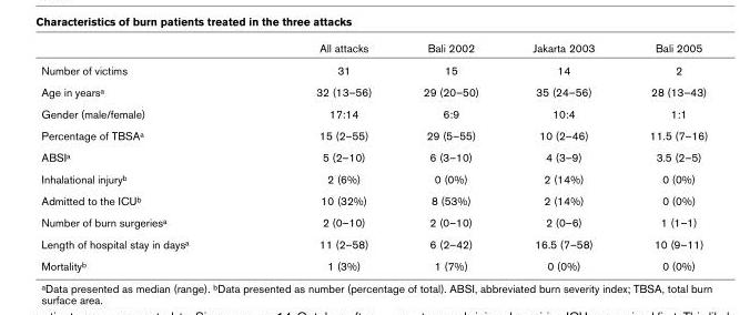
<table><thead><tr><td></td><td>All attacks</td><td>Bali 2002</td><td>Jakarta 2003</td><td>Bali 2005</td></tr></thead><tbody><tr><td>Number of victims</td><td>31</td><td>15</td><td>14</td><td>2</td></tr><tr><td>Age in years<sup>a</sup></td><td>32 (13–56)</td><td>29 (20–50)</td><td>35 (24–56)</td><td>28 (13–43)</td></tr><tr><td>Gender (male/female)</td><td>17:14</td><td>6:9</td><td>10:4</td><td>1:1</td></tr><tr><td>Percentage of TBSA<sup>a</sup></td><td>15 (2–55)</td><td>29 (5–55)</td><td>10 (2–46)</td><td>11.5 (7–16)</td></tr><tr><td>ABSI<sup>a</sup></td><td>5 (2–10)</td><td>6 (3–10)</td><td>4 (3–9)</td><td>3.5 (2–5)</td></tr><tr><td>Inhalational injury<sup>b</sup></td><td>2 (6%)</td><td>0 (0%)</td><td>2 (14%)</td><td>0 (0%)</td></tr><tr><td>Admitted to the ICU<sup>b</sup></td><td>10 (32%)</td><td>8 (53%)</td><td>2 (14%)</td><td>0 (0%)</td></tr><tr><td>Number of burn surgeries<sup>a</sup></td><td>2 (0–10)</td><td>2 (0–10)</td><td>2 (0–6)</td><td>1 (1–1)</td></tr><tr><td>Length of hospital stay in days<sup>a</sup></td><td>11 (2–58)</td><td>6 (2–42)</td><td>16.5 (7–58)</td><td>10 (9–11)</td></tr><tr><td>Mortality<sup>b</sup></td><td>1 (3%)</td><td>1 (7%)</td><td>0 (0%)</td><td>0 (0%)</td></tr></tbody></table>